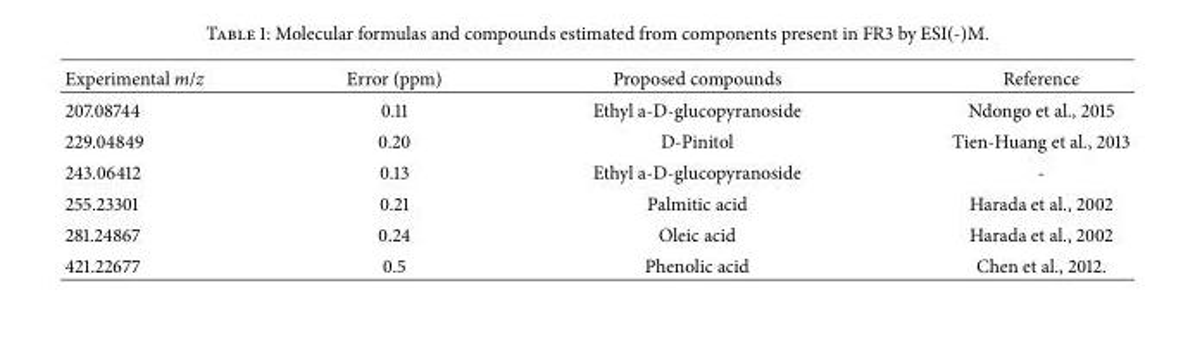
<table><thead><tr><td>Experimental m/z</td><td>Error (ppm)</td><td>Proposed compounds</td><td>Reference</td></tr></thead><tbody><tr><td>207.08744</td><td>0.11</td><td>Ethyl a-D-glucopyranoside</td><td>Ndongo et al., 2015</td></tr><tr><td>229.04849</td><td>0.20</td><td>D-Pinitol</td><td>Tien-Huang et al., 2013</td></tr><tr><td>243.06412</td><td>0.13</td><td>Ethyl a-D-glucopyranoside</td><td>-</td></tr><tr><td>255.23301</td><td>0.21</td><td>Palmitic acid</td><td>Harada et al., 2002</td></tr><tr><td>281.24867</td><td>0.24</td><td>Oleic acid</td><td>Harada et al., 2002</td></tr><tr><td>421.22677</td><td>0.5</td><td>Phenolic acid</td><td>Chen et al., 2012.</td></tr></tbody></table>